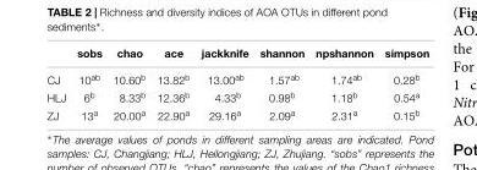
<table><thead><tr><td></td><td>sobs</td><td>chao</td><td>ace</td><td>jackknife</td><td>shannon</td><td>npshannon</td><td>simpson</td></tr></thead><tbody><tr><td>CJ</td><td>10<sup>ab</sup></td><td>10.60<sup>b</sup></td><td>13.82<sup>b</sup></td><td>13.00<sup>ab</sup></td><td>1.57<sup>ab</sup></td><td>1.74<sup>ab</sup></td><td>0.28<sup>b</sup></td></tr><tr><td>HLJ</td><td>6<sup>b</sup></td><td>8.33<sup>b</sup></td><td>12.36<sup>b</sup></td><td>4.33<sup>b</sup></td><td>0.98<sup>b</sup></td><td>1.18<sup>b</sup></td><td>0.54<sup>a</sup></td></tr><tr><td>ZJ</td><td>13<sup>a</sup></td><td>20.00<sup>a</sup></td><td>22.90<sup>a</sup></td><td>29.16<sup>a</sup></td><td>2.09<sup>a</sup></td><td>2.31<sup>a</sup></td><td>0.15<sup>b</sup></td></tr></tbody></table>